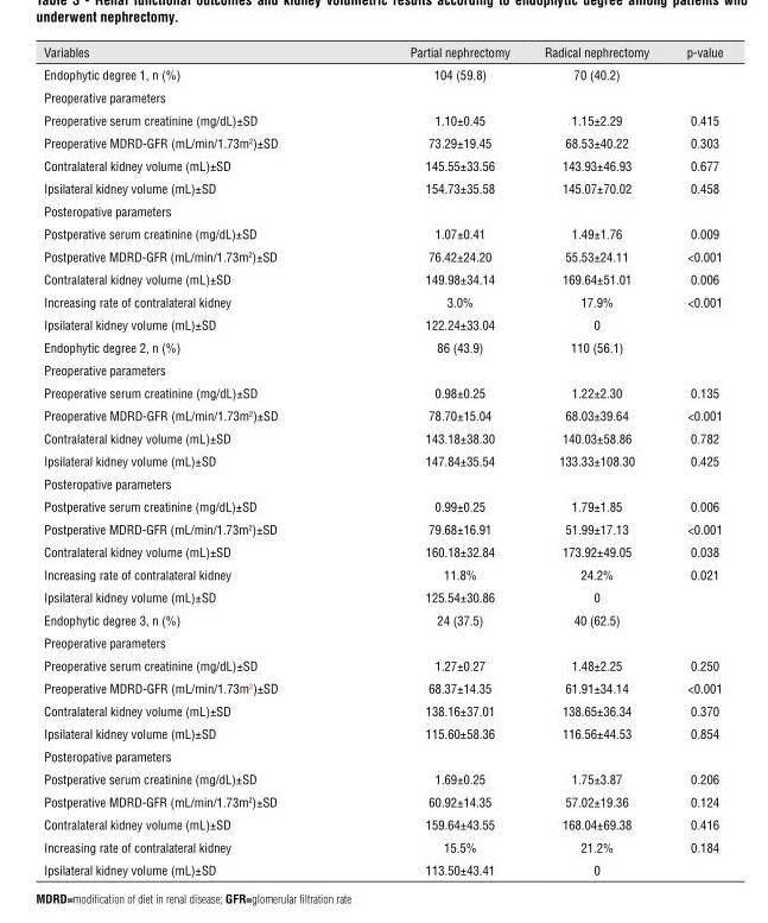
<table><thead><tr><td>Variables</td><td>Partial nephrectomy</td><td>Radical nephrectomy</td><td>p-value</td></tr></thead><tbody><tr><td>Endophytic degree 1, n (%)</td><td>104 (59.8)</td><td>70 (40.2)</td><td></td></tr><tr><td colspan="4">Preoperative parameters</td></tr><tr><td>Preoperative serum creatinine (mg/dL)±SD</td><td>1.10±0.45</td><td>1.15±2.29</td><td>0.415</td></tr><tr><td>Preoperative MDRD-GFR (mL/min/1.73m<sup>2</sup>)±SD</td><td>73.29±19.45</td><td>68.53±40.22</td><td>0.303</td></tr><tr><td>Contralateral kidney volume (mL)±SD</td><td>145.55±33.56</td><td>143.93±46.93</td><td>0.677</td></tr><tr><td>Ipsilateral kidney volume (mL)±SD</td><td>154.73±35.58</td><td>145.07±70.02</td><td>0.458</td></tr><tr><td colspan="4">Posteropative parameters</td></tr><tr><td>Postperative serum creatinine (mg/dL)±SD</td><td>1.07±0.41</td><td>1.49±1.76</td><td>0.009</td></tr><tr><td>Postperative MDRD-GFR (mL/min/1.73m<sup>2</sup>)±SD</td><td>76.42±24.20</td><td>55.53±24.11</td><td>&lt;0.001</td></tr><tr><td>Contralateral kidney volume (mL)±SD</td><td>149.98±34.14</td><td>169.64±51.01</td><td>0.006</td></tr><tr><td>Increasing rate of contralateral kidney</td><td>3.0%</td><td>17.9%</td><td>&lt;0.001</td></tr><tr><td>Ipsilateral kidney volume (mL)±SD</td><td>122.24±33.04</td><td>0</td><td></td></tr><tr><td>Endophytic degree 2, n (%)</td><td>86 (43.9)</td><td>110 (56.1)</td><td></td></tr><tr><td colspan="4">Preoperative parameters</td></tr><tr><td>Preoperative serum creatinine (mg/dL)±SD</td><td>0.98±0.25</td><td>1.22±2.30</td><td>0.135</td></tr><tr><td>Preoperative MDRD-GFR (mL/min/1.73m<sup>2</sup>)±SD</td><td>78.70±15.04</td><td>68.03±39.64</td><td>&lt;0.001</td></tr><tr><td>Contralateral kidney volume (mL)±SD</td><td>143.18±38.30</td><td>140.03±58.86</td><td>0.782</td></tr><tr><td>Ipsilateral kidney volume (mL)±SD</td><td>147.84±35.54</td><td>133.33±108.30</td><td>0.425</td></tr><tr><td colspan="4">Posteropative parameters</td></tr><tr><td>Postperative serum creatinine (mg/dL)±SD</td><td>0.99±0.25</td><td>1.79±1.85</td><td>0.006</td></tr><tr><td>Postperative MDRD-GFR (mL/min/1.73m<sup>2</sup>)±SD</td><td>79.68±16.91</td><td>51.99±17.13</td><td>&lt;0.001</td></tr><tr><td>Contralateral kidney volume (mL)±SD</td><td>160.18±32.84</td><td>173.92±49.05</td><td>0.038</td></tr><tr><td>Increasing rate of contralateral kidney</td><td>11.8%</td><td>24.2%</td><td>0.021</td></tr><tr><td>Ipsilateral kidney volume (mL)±SD</td><td>125.54±30.86</td><td>0</td><td></td></tr><tr><td>Endophytic degree 3, n (%)</td><td>24 (37.5)</td><td>40 (62.5)</td><td></td></tr><tr><td colspan="4">Preoperative parameters</td></tr><tr><td>Preoperative serum creatinine (mg/dL)±SD</td><td>1.27±0.27</td><td>1.48±2.25</td><td>0.250</td></tr><tr><td>Preoperative MDRD-GFR (mL/min/1.73m<sup>2</sup>)±SD</td><td>68.37±14.35</td><td>61.91±34.14</td><td>&lt;0.001</td></tr><tr><td>Contralateral kidney volume (mL)±SD</td><td>138.16±37.01</td><td>138.65±36.34</td><td>0.370</td></tr><tr><td>Ipsilateral kidney volume (mL)±SD</td><td>115.60±58.36</td><td>116.56±44.53</td><td>0.854</td></tr><tr><td colspan="4">Posteropative parameters</td></tr><tr><td>Postperative serum creatinine (mg/dL)±SD</td><td>1.69±0.25</td><td>1.75±3.87</td><td>0.206</td></tr><tr><td>Postperative MDRD-GFR (mL/min/1.73m<sup>2</sup>)±SD</td><td>60.92±14.35</td><td>57.02±19.36</td><td>0.124</td></tr><tr><td>Contralateral kidney volume (mL)±SD</td><td>159.64±43.55</td><td>168.04±69.38</td><td>0.416</td></tr><tr><td>Increasing rate of contralateral kidney</td><td>15.5%</td><td>21.2%</td><td>0.184</td></tr><tr><td>Ipsilateral kidney volume (mL)±SD</td><td>113.50±43.41</td><td>0</td><td></td></tr></tbody></table>